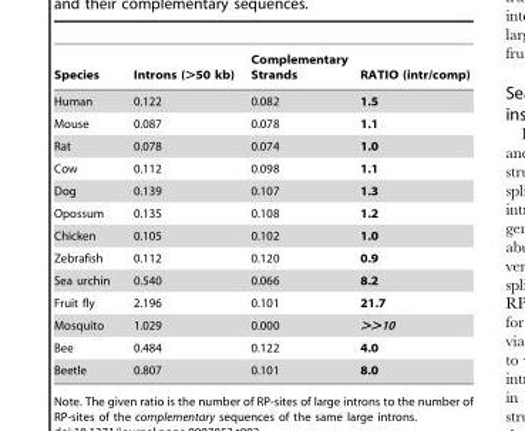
<table><thead><tr><td>Species</td><td>Introns (&gt;50 kb)</td><td>Complementary Strands</td><td>RATIO (intr/comp)</td></tr></thead><tbody><tr><td>Human</td><td>0.122</td><td>0.082</td><td>1.5</td></tr><tr><td>Mouse</td><td>0.087</td><td>0.078</td><td>1.1</td></tr><tr><td>Rat</td><td>0.078</td><td>0.074</td><td>1.0</td></tr><tr><td>Cow</td><td>0.112</td><td>0.098</td><td>1.1</td></tr><tr><td>Dog</td><td>0.139</td><td>0.107</td><td>1.3</td></tr><tr><td>Opossum</td><td>0.135</td><td>0.108</td><td>1.2</td></tr><tr><td>Chicken</td><td>0.105</td><td>0.102</td><td>1.0</td></tr><tr><td>Zebrafish</td><td>0.112</td><td>0.120</td><td>0.9</td></tr><tr><td>Sea urchin</td><td>0.540</td><td>0.066</td><td>8.2</td></tr><tr><td>Fruit fly</td><td>2.196</td><td>0.101</td><td>21.7</td></tr><tr><td>Mosquito</td><td>1.029</td><td>0.000</td><td>&gt;&gt;10</td></tr><tr><td>Bee</td><td>0.484</td><td>0.122</td><td>4.0</td></tr><tr><td>Beetle</td><td>0.807</td><td>0.101</td><td>8.0</td></tr></tbody></table>